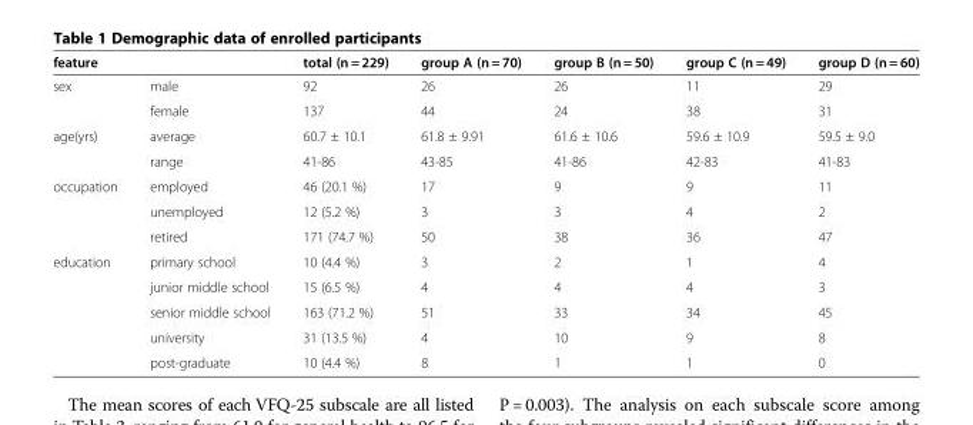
<table><thead><tr><td>feature</td><td></td><td>total (n = 229)</td><td>group A (n = 70)</td><td>group B (n = 50)</td><td>group C (n = 49)</td><td>group D (n = 60)</td></tr></thead><tbody><tr><td rowspan="2">sex</td><td>male</td><td>92</td><td>26</td><td>26</td><td>11</td><td>29</td></tr><tr><td>female</td><td>137</td><td>44</td><td>24</td><td>38</td><td>31</td></tr><tr><td rowspan="2">age(yrs)</td><td>average</td><td>60.7 ± 10.1</td><td>61.8 ± 9.91</td><td>61.6 ± 10.6</td><td>59.6 ± 10.9</td><td>59.5 ± 9.0</td></tr><tr><td>range</td><td>41-86</td><td>43-85</td><td>41-86</td><td>42-83</td><td>41-83</td></tr><tr><td rowspan="3">occupation</td><td>employed</td><td>46 (20.1 %)</td><td>17</td><td>9</td><td>9</td><td>11</td></tr><tr><td>unemployed</td><td>12 (5.2 %)</td><td>3</td><td>3</td><td>4</td><td>2</td></tr><tr><td>retired</td><td>171 (74.7 %)</td><td>50</td><td>38</td><td>36</td><td>47</td></tr><tr><td rowspan="5">education</td><td>primary school</td><td>10 (4.4 %)</td><td>3</td><td>2</td><td>1</td><td>4</td></tr><tr><td>junior middle school</td><td>15 (6.5 %)</td><td>4</td><td>4</td><td>4</td><td>3</td></tr><tr><td>senior middle school</td><td>163 (71.2 %)</td><td>51</td><td>33</td><td>34</td><td>45</td></tr><tr><td>university</td><td>31 (13.5 %)</td><td>4</td><td>10</td><td>9</td><td>8</td></tr><tr><td>post-graduate</td><td>10 (4.4 %)</td><td>8</td><td>1</td><td>1</td><td>0</td></tr></tbody></table>